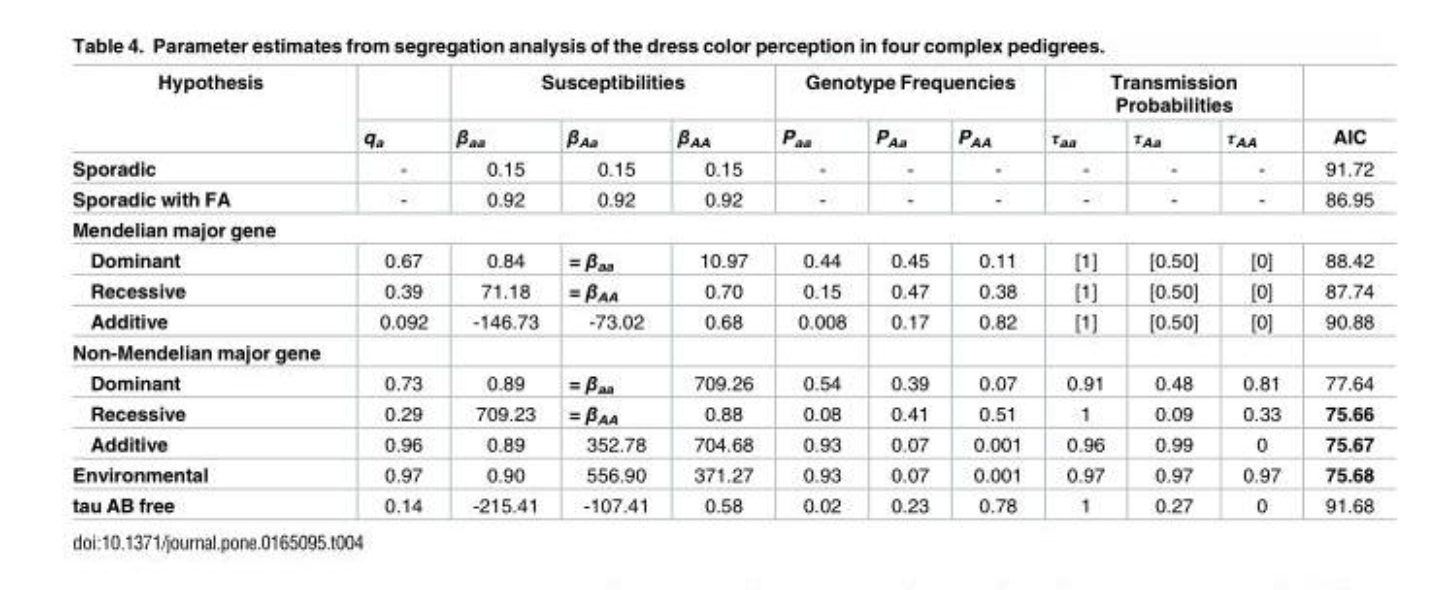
<table><thead><tr><td rowspan="2">Hypothesis</td><td rowspan="2">q<sub>a</sub></td><td colspan="3">Susceptibilities</td><td colspan="3">Genotype Frequencies</td><td colspan="3">Transmission Probabilities</td><td rowspan="2">AIC</td></tr><tr><td>βaa</td><td>β<sub>Aa</sub></td><td>β<sub>AA</sub></td><td>P<sub>aa</sub></td><td>P<sub>Aa</sub></td><td>P<sub>AA</sub></td><td>τ<sub>aa</sub></td><td>τ<sub>Aa</sub></td><td>τAA</td></tr></thead><tbody><tr><td>Sporadic</td><td>-</td><td>0.15</td><td>0.15</td><td>0.15</td><td>-</td><td>-</td><td>-</td><td>-</td><td>-</td><td>-</td><td>91.72</td></tr><tr><td>Sporadic with FA</td><td>-</td><td>0.92</td><td>0.92</td><td>0.92</td><td>-</td><td>-</td><td>-</td><td>-</td><td>-</td><td>-</td><td>86.95</td></tr><tr><td colspan="12">Mendelian major gene</td></tr><tr><td>Dominant</td><td>0.67</td><td>0.84</td><td>= β<sub>aa</sub></td><td>10.97</td><td>0.44</td><td>0.45</td><td>0.11</td><td>[1]</td><td>[0.50]</td><td>[0]</td><td>88.42</td></tr><tr><td>Recessive</td><td>0.39</td><td>71.18</td><td>= β<sub>AA</sub></td><td>0.70</td><td>0.15</td><td>0.47</td><td>0.38</td><td>[1]</td><td>[0.50]</td><td>[0]</td><td>87.74</td></tr><tr><td>Additive</td><td>0.092</td><td>-146.73</td><td>-73.02</td><td>0.68</td><td>0.008</td><td>0.17</td><td>0.82</td><td>[1]</td><td>[0.50]</td><td>[0]</td><td>90.88</td></tr><tr><td colspan="12">Non-Mendelian major gene</td></tr><tr><td>Dominant</td><td>0.73</td><td>0.89</td><td>= β<sub>aa</sub></td><td>709.26</td><td>0.54</td><td>0.39</td><td>0.07</td><td>0.91</td><td>0.48</td><td>0.81</td><td>77.64</td></tr><tr><td>Recessive</td><td>0.29</td><td>709.23</td><td>= β<sub>AA</sub></td><td>0.88</td><td>0.08</td><td>0.41</td><td>0.51</td><td>1</td><td>0.09</td><td>0.33</td><td>75.66</td></tr><tr><td>Additive</td><td>0.96</td><td>0.89</td><td>352.78</td><td>704.68</td><td>0.93</td><td>0.07</td><td>0.001</td><td>0.96</td><td>0.99</td><td>0</td><td>75.67</td></tr><tr><td>Environmental</td><td>0.97</td><td>0.90</td><td>556.90</td><td>371.27</td><td>0.93</td><td>0.07</td><td>0.001</td><td>0.97</td><td>0.97</td><td>0.97</td><td>75.68</td></tr><tr><td>tau AB free</td><td>0.14</td><td>-215.41</td><td>-107.41</td><td>0.58</td><td>0.02</td><td>0.23</td><td>0.78</td><td>1</td><td>0.27</td><td>0</td><td>91.68</td></tr></tbody></table>